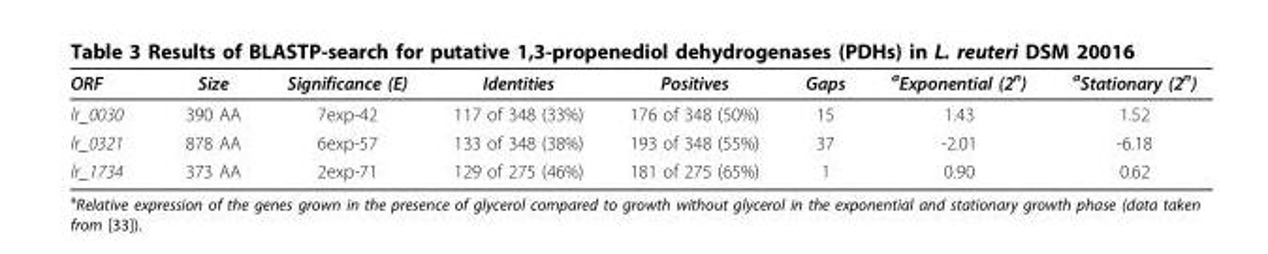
<table><thead><tr><td>ORF</td><td>Size</td><td>Significance (E)</td><td>Identities</td><td>Positives</td><td>Gaps</td><td><sup>a</sup>Exponential (2<sup>n</sup>)</td><td><sup>a</sup>Stationary (2<sup>n</sup>)</td></tr></thead><tbody><tr><td>lr_0030</td><td>390 AA</td><td>7exp-42</td><td>117 of 348 (33%)</td><td>176 of 348 (50%)</td><td>15</td><td>1.43</td><td>1.52</td></tr><tr><td>lr_0321</td><td>878 AA</td><td>6exp-57</td><td>133 of 348 (38%)</td><td>193 of 348 (55%)</td><td>37</td><td>-2.01</td><td>-6.18</td></tr><tr><td>lr_1734</td><td>373 AA</td><td>2exp-71</td><td>129 of 275 (46%)</td><td>181 of 275 (65%)</td><td>1</td><td>0.90</td><td>0.62</td></tr></tbody></table>